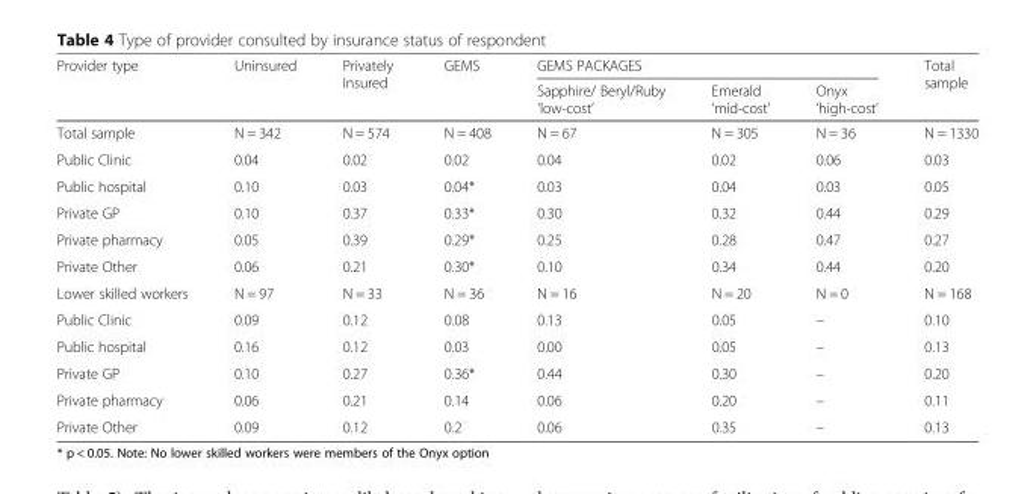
<table><thead><tr><td rowspan="2">Provider type</td><td rowspan="2">Uninsured</td><td rowspan="2">Privately Insured</td><td rowspan="2">GEMS</td><td colspan="3">GEMS PACKAGES</td><td rowspan="2">Total sample</td></tr><tr><td>Sapphire/ Beryl/Ruby ‘low-cost’</td><td>Emerald ‘mid-cost’</td><td>Onyx ‘high-cost’</td></tr></thead><tbody><tr><td>Total sample</td><td>N = 342</td><td>N = 574</td><td>N = 408</td><td>N = 67</td><td>N = 305</td><td>N = 36</td><td>N = 1330</td></tr><tr><td>Public Clinic</td><td>0.04</td><td>0.02</td><td>0.02</td><td>0.04</td><td>0.02</td><td>0.06</td><td>0.03</td></tr><tr><td>Public hospital</td><td>0.10</td><td>0.03</td><td>0.04*</td><td>0.03</td><td>0.04</td><td>0.03</td><td>0.05</td></tr><tr><td>Private GP</td><td>0.10</td><td>0.37</td><td>0.33*</td><td>0.30</td><td>0.32</td><td>0.44</td><td>0.29</td></tr><tr><td>Private pharmacy</td><td>0.05</td><td>0.39</td><td>0.29*</td><td>0.25</td><td>0.28</td><td>0.47</td><td>0.27</td></tr><tr><td>Private Other</td><td>0.06</td><td>0.21</td><td>0.30*</td><td>0.10</td><td>0.34</td><td>0.44</td><td>0.20</td></tr><tr><td>Lower skilled workers</td><td>N = 97</td><td>N = 33</td><td>N = 36</td><td>N = 16</td><td>N = 20</td><td>N = 0</td><td>N = 168</td></tr><tr><td>Public Clinic</td><td>0.09</td><td>0.12</td><td>0.08</td><td>0.13</td><td>0.05</td><td>–</td><td>0.10</td></tr><tr><td>Public hospital</td><td>0.16</td><td>0.12</td><td>0.03</td><td>0.00</td><td>0.05</td><td>–</td><td>0.13</td></tr><tr><td>Private GP</td><td>0.10</td><td>0.27</td><td>0.36*</td><td>0.44</td><td>0.30</td><td>–</td><td>0.20</td></tr><tr><td>Private pharmacy</td><td>0.06</td><td>0.21</td><td>0.14</td><td>0.06</td><td>0.20</td><td>–</td><td>0.11</td></tr><tr><td>Private Other</td><td>0.09</td><td>0.12</td><td>0.2</td><td>0.06</td><td>0.35</td><td>–</td><td>0.13</td></tr></tbody></table>